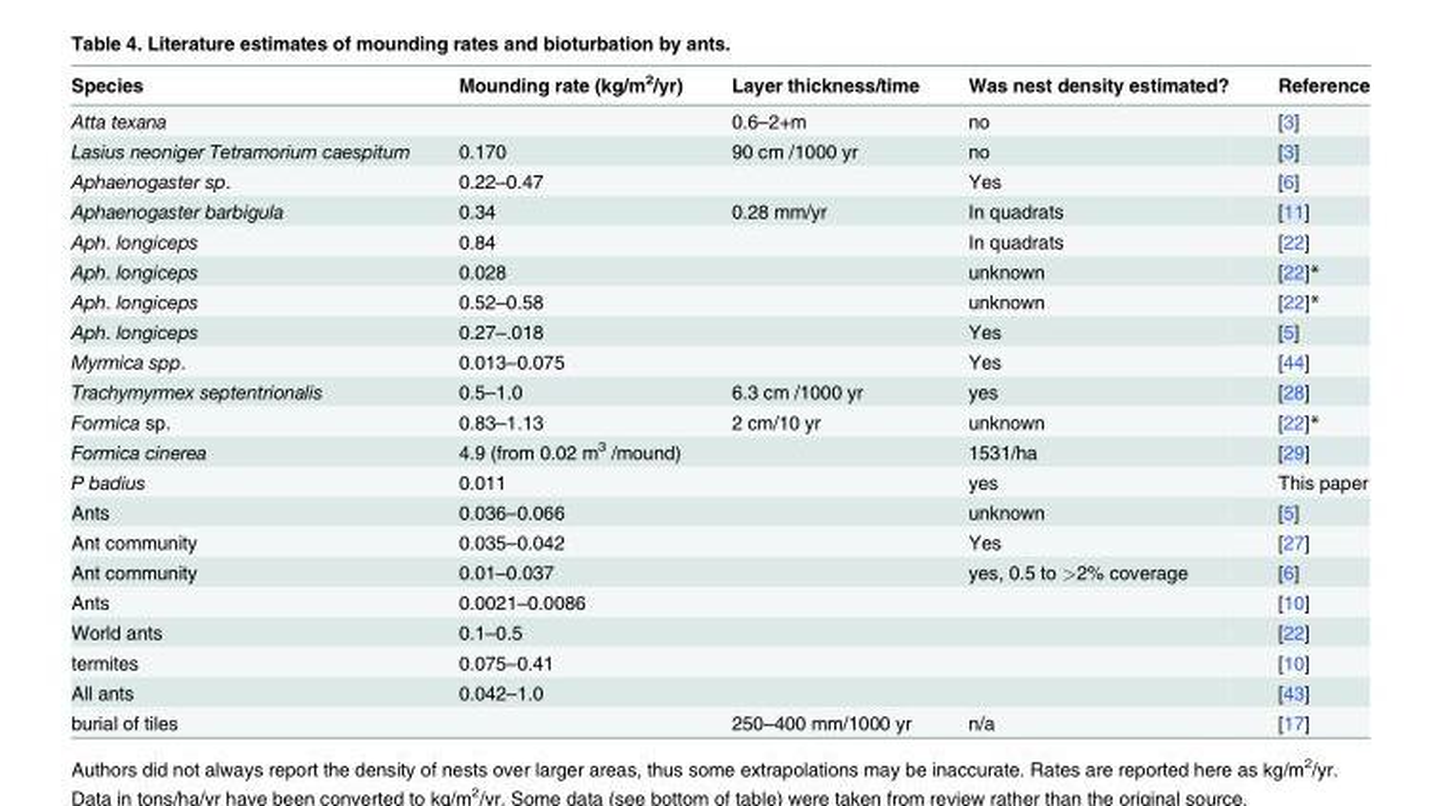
<table><thead><tr><td>Species</td><td>Mounding rate (kg/m<sup>2</sup>/yr)</td><td>Layer thickness/time</td><td>Was nest density estimated?</td><td>Reference</td></tr></thead><tbody><tr><td>Atta texana</td><td></td><td>0.6–2+m</td><td>no</td><td>[3]</td></tr><tr><td>Lasius neoniger Tetramorium caespitum</td><td>0.170</td><td>90 cm /1000 yr</td><td>no</td><td>[3]</td></tr><tr><td>Aphaenogaster sp.</td><td>0.22–0.47</td><td></td><td>Yes</td><td>[6]</td></tr><tr><td>Aphaenogaster barbigula</td><td>0.34</td><td>0.28 mm/yr</td><td>In quadrats</td><td>[11]</td></tr><tr><td>Aph. longiceps</td><td>0.84</td><td></td><td>In quadrats</td><td>[22]</td></tr><tr><td>Aph. longiceps</td><td>0.028</td><td></td><td>unknown</td><td>[22]*</td></tr><tr><td>Aph. longiceps</td><td>0.52–0.58</td><td></td><td>unknown</td><td>[22]*</td></tr><tr><td>Aph. longiceps</td><td>0.27–.018</td><td></td><td>Yes</td><td>[5]</td></tr><tr><td>Myrmica spp.</td><td>0.013–0.075</td><td></td><td>Yes</td><td>[44]</td></tr><tr><td>Trachymyrmex septentrionalis</td><td>0.5–1.0</td><td>6.3 cm /1000 yr</td><td>yes</td><td>[28]</td></tr><tr><td>Formica sp.</td><td>0.83–1.13</td><td>2 cm/10 yr</td><td>unknown</td><td>[22]*</td></tr><tr><td>Formica cinerea</td><td>4.9 (from 0.02 m<sup>3</sup> /mound)</td><td></td><td>1531/ha</td><td>[29]</td></tr><tr><td>P badius</td><td>0.011</td><td></td><td>yes</td><td>This paper</td></tr><tr><td>Ants</td><td>0.036–0.066</td><td></td><td>unknown</td><td>[5]</td></tr><tr><td>Ant community</td><td>0.035–0.042</td><td></td><td>Yes</td><td>[27]</td></tr><tr><td>Ant community</td><td>0.01–0.037</td><td></td><td>yes, 0.5 to &gt;2% coverage</td><td>[6]</td></tr><tr><td>Ants</td><td>0.0021–0.0086</td><td></td><td></td><td>[10]</td></tr><tr><td>World ants</td><td>0.1–0.5</td><td></td><td></td><td>[22]</td></tr><tr><td>termites</td><td>0.075–0.41</td><td></td><td></td><td>[10]</td></tr><tr><td>All ants</td><td>0.042–1.0</td><td></td><td></td><td>[43]</td></tr><tr><td>burial of tiles</td><td></td><td>250–400 mm/1000 yr</td><td>n/a</td><td>[17]</td></tr></tbody></table>